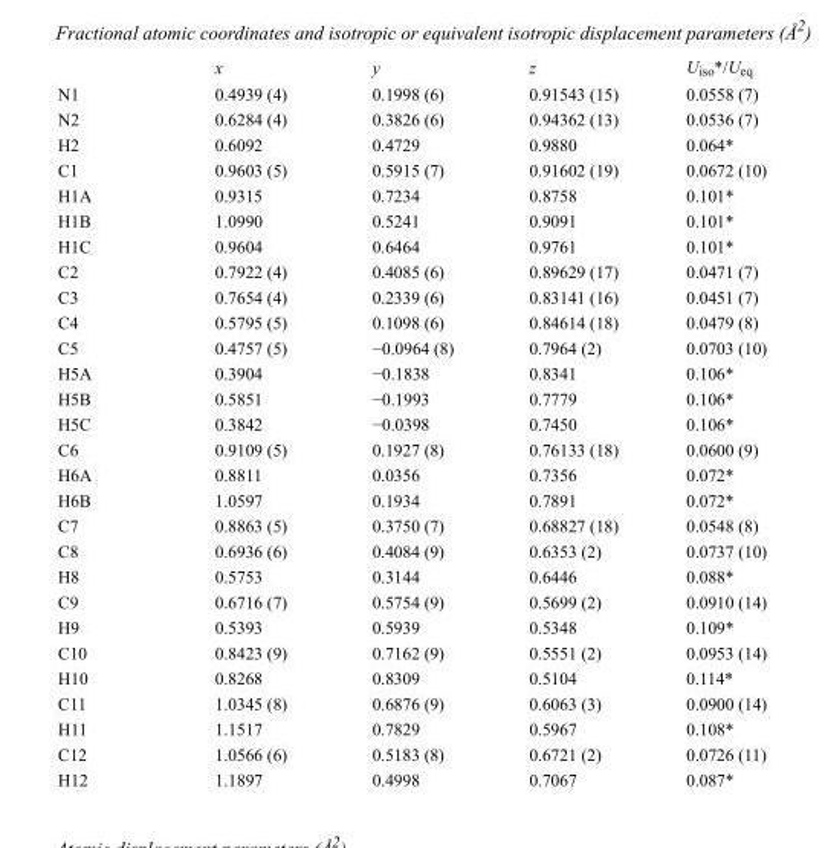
<table><thead><tr><td></td><td>x</td><td>y</td><td>z</td><td>U<sub>iso</sub>*/U<sub>eq</sub></td></tr></thead><tbody><tr><td>N1</td><td>0.4939 (4)</td><td>0.1998 (6)</td><td>0.91543 (15)</td><td>0.0558 (7)</td></tr><tr><td>N2</td><td>0.6284 (4)</td><td>0.3826 (6)</td><td>0.94362 (13)</td><td>0.0536 (7)</td></tr><tr><td>H2</td><td>0.6092</td><td>0.4729</td><td>0.9880</td><td>0.064*</td></tr><tr><td>C1</td><td>0.9603 (5)</td><td>0.5915 (7)</td><td>0.91602 (19)</td><td>0.0672 (10)</td></tr><tr><td>H1A</td><td>0.9315</td><td>0.7234</td><td>0.8758</td><td>0.101*</td></tr><tr><td>H1B</td><td>1.0990</td><td>0.5241</td><td>0.9091</td><td>0.101*</td></tr><tr><td>H1C</td><td>0.9604</td><td>0.6464</td><td>0.9761</td><td>0.101*</td></tr><tr><td>C2</td><td>0.7922 (4)</td><td>0.4085 (6)</td><td>0.89629 (17)</td><td>0.0471 (7)</td></tr><tr><td>C3</td><td>0.7654 (4)</td><td>0.2339 (6)</td><td>0.83141 (16)</td><td>0.0451 (7)</td></tr><tr><td>C4</td><td>0.5795 (5)</td><td>0.1098 (6)</td><td>0.84614 (18)</td><td>0.0479 (8)</td></tr><tr><td>C5</td><td>0.4757 (5)</td><td>−0.0964 (8)</td><td>0.7964 (2)</td><td>0.0703 (10)</td></tr><tr><td>H5A</td><td>0.3904</td><td>−0.1838</td><td>0.8341</td><td>0.106*</td></tr><tr><td>H5B</td><td>0.5851</td><td>−0.1993</td><td>0.7779</td><td>0.106*</td></tr><tr><td>H5C</td><td>0.3842</td><td>−0.0398</td><td>0.7450</td><td>0.106*</td></tr><tr><td>C6</td><td>0.9109 (5)</td><td>0.1927 (8)</td><td>0.76133 (18)</td><td>0.0600 (9)</td></tr><tr><td>H6A</td><td>0.8811</td><td>0.0356</td><td>0.7356</td><td>0.072*</td></tr><tr><td>H6B</td><td>1.0597</td><td>0.1934</td><td>0.7891</td><td>0.072*</td></tr><tr><td>C7</td><td>0.8863 (5)</td><td>0.3750 (7)</td><td>0.68827 (18)</td><td>0.0548 (8)</td></tr><tr><td>C8</td><td>0.6936 (6)</td><td>0.4084 (9)</td><td>0.6353 (2)</td><td>0.0737 (10)</td></tr><tr><td>H8</td><td>0.5753</td><td>0.3144</td><td>0.6446</td><td>0.088*</td></tr><tr><td>C9</td><td>0.6716 (7)</td><td>0.5754 (9)</td><td>0.5699 (2)</td><td>0.0910 (14)</td></tr><tr><td>H9</td><td>0.5393</td><td>0.5939</td><td>0.5348</td><td>0.109*</td></tr><tr><td>C10</td><td>0.8423 (9)</td><td>0.7162 (9)</td><td>0.5551 (2)</td><td>0.0953 (14)</td></tr><tr><td>H10</td><td>0.8268</td><td>0.8309</td><td>0.5104</td><td>0.114*</td></tr><tr><td>C11</td><td>1.0345 (8)</td><td>0.6876 (9)</td><td>0.6063 (3)</td><td>0.0900 (14)</td></tr><tr><td>H11</td><td>1.1517</td><td>0.7829</td><td>0.5967</td><td>0.108*</td></tr><tr><td>C12</td><td>1.0566 (6)</td><td>0.5183 (8)</td><td>0.6721 (2)</td><td>0.0726 (11)</td></tr><tr><td>H12</td><td>1.1897</td><td>0.4998</td><td>0.7067</td><td>0.087*</td></tr></tbody></table>